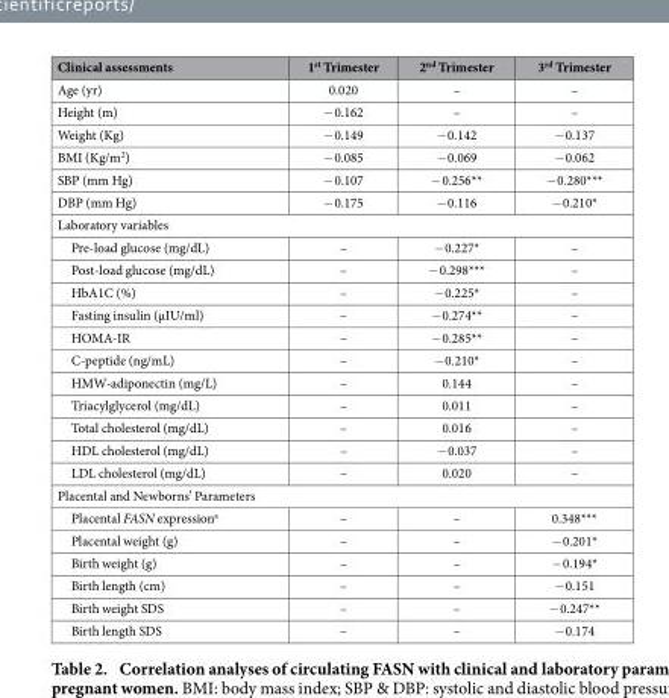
<table><thead><tr><td>Clinical assessments</td><td>1<sup>st</sup> Trimester</td><td>2<sup>nd</sup> Trimester</td><td>3<sup>rd</sup> Trimester</td></tr></thead><tbody><tr><td>Age (yr)</td><td>0.020</td><td>–</td><td>–</td></tr><tr><td>Height (m)</td><td>− 0.162</td><td>–</td><td>–</td></tr><tr><td>Weight (Kg)</td><td>− 0.149</td><td>− 0.142</td><td>− 0.137</td></tr><tr><td>BMI (Kg/m<sup>2</sup>)</td><td>− 0.085</td><td>− 0.069</td><td>− 0.062</td></tr><tr><td>SBP (mm Hg)</td><td>− 0.107</td><td>− 0.256**</td><td>− 0.280***</td></tr><tr><td>DBP (mm Hg)</td><td>− 0.175</td><td>− 0.116</td><td>− 0.210*</td></tr><tr><td colspan="4">Laboratory variables</td></tr><tr><td>Pre-load glucose (mg/dL)</td><td>–</td><td>− 0.227*</td><td>–</td></tr><tr><td>Post-load glucose (mg/dL)</td><td>–</td><td>− 0.298***</td><td>–</td></tr><tr><td>HbA1C (%)</td><td>–</td><td>− 0.225*</td><td>–</td></tr><tr><td>Fasting insulin (μIU/ml)</td><td>–</td><td>− 0.274**</td><td>–</td></tr><tr><td>HOMA-IR</td><td>–</td><td>− 0.285**</td><td>–</td></tr><tr><td>C-peptide (ng/mL)</td><td>–</td><td>− 0.210*</td><td>–</td></tr><tr><td>HMW-adiponectin (mg/L)</td><td>–</td><td>0.144</td><td>–</td></tr><tr><td>Triacylglycerol (mg/dL)</td><td>–</td><td>0.011</td><td>–</td></tr><tr><td>Total cholesterol (mg/dL)</td><td>–</td><td>0.016</td><td>–</td></tr><tr><td>HDL cholesterol (mg/dL)</td><td>–</td><td>− 0.037</td><td>–</td></tr><tr><td>LDL cholesterol (mg/dL)</td><td>–</td><td>0.020</td><td>–</td></tr><tr><td colspan="4">Placental and Newborns’ Parameters</td></tr><tr><td>Placental FASN expression<sup>a</sup></td><td>–</td><td>–</td><td>0.348***</td></tr><tr><td>Placental weight (g)</td><td>–</td><td>–</td><td>− 0.201*</td></tr><tr><td>Birth weight (g)</td><td>–</td><td>–</td><td>− 0.194*</td></tr><tr><td>Birth length (cm)</td><td>–</td><td>–</td><td>− 0.151</td></tr><tr><td>Birth weight SDS</td><td>–</td><td>–</td><td>− 0.247**</td></tr><tr><td>Birth length SDS</td><td>–</td><td>–</td><td>− 0.174</td></tr></tbody></table>